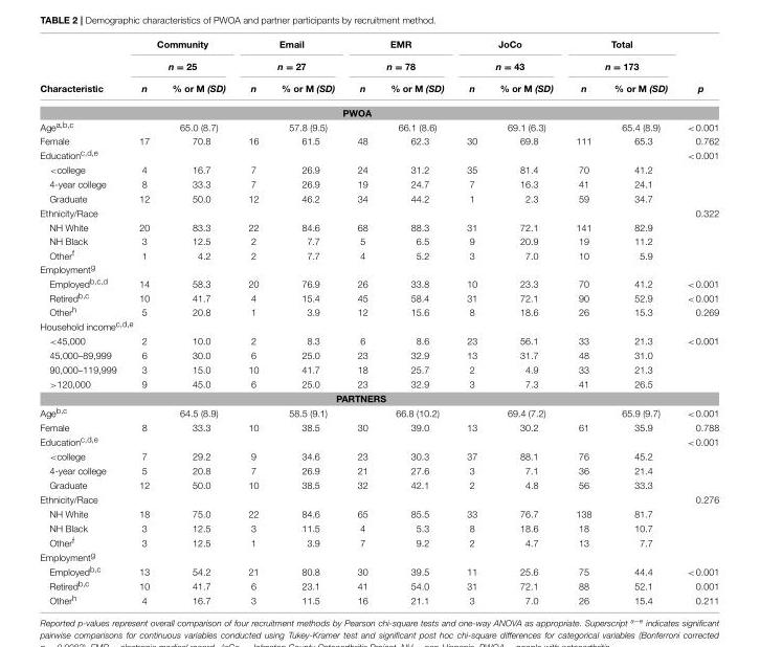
<table><thead><tr><td rowspan="3">Characteristic</td><td rowspan="2" colspan="2">Community n = 25</td><td rowspan="2" colspan="2">Email n = 27</td><td rowspan="2" colspan="2">EMR n = 78</td><td rowspan="2" colspan="2">JoCo n = 43</td><td rowspan="2" colspan="2">Total n = 173</td><td rowspan="3">p</td></tr><tr></tr><tr><td>n</td><td>% or M (SD)</td><td>n</td><td>% or M (SD)</td><td>n</td><td>% or M (SD)</td><td>n</td><td>% or M (SD)</td><td>n</td><td>% or M (SD)</td></tr></thead><tbody><tr><td colspan="12">PWOA</td></tr><tr><td>Age<sup>a,b,c</sup></td><td></td><td>65.0 (8.7)</td><td></td><td>57.8 (9.5)</td><td></td><td>66.1 (8.6)</td><td></td><td>69.1 (6.3)</td><td></td><td>65.4 (8.9)</td><td>&lt;0.001</td></tr><tr><td>Female</td><td>17</td><td>70.8</td><td>16</td><td>61.5</td><td>48</td><td>62.3</td><td>30</td><td>69.8</td><td>111</td><td>65.3</td><td>0.762</td></tr><tr><td>Education<sup>c,d,e</sup></td><td></td><td></td><td></td><td></td><td></td><td></td><td></td><td></td><td></td><td></td><td>&lt;0.001</td></tr><tr><td>&lt;college</td><td>4</td><td>16.7</td><td>7</td><td>26.9</td><td>24</td><td>31.2</td><td>35</td><td>81.4</td><td>70</td><td>41.2</td><td></td></tr><tr><td>4-year college</td><td>8</td><td>33.3</td><td>7</td><td>26.9</td><td>19</td><td>24.7</td><td>7</td><td>16.3</td><td>41</td><td>24.1</td><td></td></tr><tr><td>Graduate</td><td>12</td><td>50.0</td><td>12</td><td>46.2</td><td>34</td><td>44.2</td><td>1</td><td>2.3</td><td>59</td><td>34.7</td><td></td></tr><tr><td>Ethnicity/Race</td><td></td><td></td><td></td><td></td><td></td><td></td><td></td><td></td><td></td><td></td><td>0.322</td></tr><tr><td>NH White</td><td>20</td><td>83.3</td><td>22</td><td>84.6</td><td>68</td><td>88.3</td><td>31</td><td>72.1</td><td>141</td><td>82.9</td><td></td></tr><tr><td>NH Black</td><td>3</td><td>12.5</td><td>2</td><td>7.7</td><td>5</td><td>6.5</td><td>9</td><td>20.9</td><td>19</td><td>11.2</td><td></td></tr><tr><td>Other<sup>f</sup></td><td>1</td><td>4.2</td><td>2</td><td>7.7</td><td>4</td><td>5.2</td><td>3</td><td>7.0</td><td>10</td><td>5.9</td><td></td></tr><tr><td colspan="12">Employment<sup>g</sup></td></tr><tr><td>Employed<sup>b,c,d</sup></td><td>14</td><td>58.3</td><td>20</td><td>76.9</td><td>26</td><td>33.8</td><td>10</td><td>23.3</td><td>70</td><td>41.2</td><td>&lt;0.001</td></tr><tr><td>Retired<sup>b,c</sup></td><td>10</td><td>41.7</td><td>4</td><td>15.4</td><td>45</td><td>58.4</td><td>31</td><td>72.1</td><td>90</td><td>52.9</td><td>&lt;0.001</td></tr><tr><td>Other<sup>h</sup></td><td>5</td><td>20.8</td><td>1</td><td>3.9</td><td>12</td><td>15.6</td><td>8</td><td>18.6</td><td>26</td><td>15.3</td><td>0.269</td></tr><tr><td colspan="12">Household income<sup>c,d,e</sup></td></tr><tr><td>&lt;45,000</td><td>2</td><td>10.0</td><td>2</td><td>8.3</td><td>6</td><td>8.6</td><td>23</td><td>56.1</td><td>33</td><td>21.3</td><td>&lt;0.001</td></tr><tr><td>45,000–89,999</td><td>6</td><td>30.0</td><td>6</td><td>25.0</td><td>23</td><td>32.9</td><td>13</td><td>31.7</td><td>48</td><td>31.0</td><td></td></tr><tr><td>90,000–119,999</td><td>3</td><td>15.0</td><td>10</td><td>41.7</td><td>18</td><td>25.7</td><td>2</td><td>4.9</td><td>33</td><td>21.3</td><td></td></tr><tr><td>&gt;120,000</td><td>9</td><td>45.0</td><td>6</td><td>25.0</td><td>23</td><td>32.9</td><td>3</td><td>7.3</td><td>41</td><td>26.5</td><td></td></tr><tr><td colspan="12">PARTNERS</td></tr><tr><td>Age<sup>b,c</sup></td><td></td><td>64.5 (8.9)</td><td></td><td>58.5 (9.1)</td><td></td><td>66.8 (10.2)</td><td></td><td>69.4 (7.2)</td><td></td><td>65.9 (9.7)</td><td>&lt;0.001</td></tr><tr><td>Female</td><td>8</td><td>33.3</td><td>10</td><td>38.5</td><td>30</td><td>39.0</td><td>13</td><td>30.2</td><td>61</td><td>35.9</td><td>0.788</td></tr><tr><td>Education<sup>c,d,e</sup></td><td></td><td></td><td></td><td></td><td></td><td></td><td></td><td></td><td></td><td></td><td>&lt;0.001</td></tr><tr><td>&lt;college</td><td>7</td><td>29.2</td><td>9</td><td>34.6</td><td>23</td><td>30.3</td><td>37</td><td>88.1</td><td>76</td><td>45.2</td><td></td></tr><tr><td>4-year college</td><td>5</td><td>20.8</td><td>7</td><td>26.9</td><td>21</td><td>27.6</td><td>3</td><td>7.1</td><td>36</td><td>21.4</td><td></td></tr><tr><td>Graduate</td><td>12</td><td>50.0</td><td>10</td><td>38.5</td><td>32</td><td>42.1</td><td>2</td><td>4.8</td><td>56</td><td>33.3</td><td></td></tr><tr><td>Ethnicity/Race</td><td></td><td></td><td></td><td></td><td></td><td></td><td></td><td></td><td></td><td></td><td>0.276</td></tr><tr><td>NH White</td><td>18</td><td>75.0</td><td>22</td><td>84.6</td><td>65</td><td>85.5</td><td>33</td><td>76.7</td><td>138</td><td>81.7</td><td></td></tr><tr><td>NH Black</td><td>3</td><td>12.5</td><td>3</td><td>11.5</td><td>4</td><td>5.3</td><td>8</td><td>18.6</td><td>18</td><td>10.7</td><td></td></tr><tr><td>Other<sup>f</sup></td><td>3</td><td>12.5</td><td>1</td><td>3.9</td><td>7</td><td>9.2</td><td>2</td><td>4.7</td><td>13</td><td>7.7</td><td></td></tr><tr><td colspan="12">Employment<sup>g</sup></td></tr><tr><td>Employed<sup>b,c</sup></td><td>13</td><td>54.2</td><td>21</td><td>80.8</td><td>30</td><td>39.5</td><td>11</td><td>25.6</td><td>75</td><td>44.4</td><td>&lt;0.001</td></tr><tr><td>Retired<sup>b,c</sup></td><td>10</td><td>41.7</td><td>6</td><td>23.1</td><td>41</td><td>54.0</td><td>31</td><td>72.1</td><td>88</td><td>52.1</td><td>0.001</td></tr><tr><td>Other<sup>h</sup></td><td>4</td><td>16.7</td><td>3</td><td>11.5</td><td>16</td><td>21.1</td><td>3</td><td>7.0</td><td>26</td><td>15.4</td><td>0.211</td></tr></tbody></table>